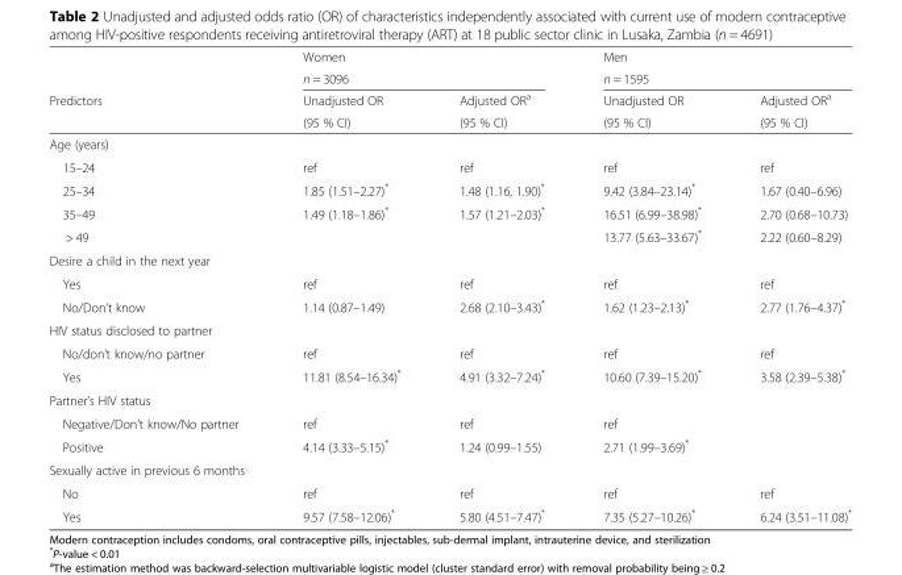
<table><thead><tr><td rowspan="4">Predictors</td><td rowspan="2" colspan="2">Women n = 3096</td><td rowspan="2" colspan="2">Men n = 1595</td></tr><tr></tr><tr><td rowspan="2">Unadjusted OR (95 % CI)</td><td rowspan="2">Adjusted OR<sup>a</sup> (95 % CI)</td><td rowspan="2">Unadjusted OR (95 % CI)</td><td rowspan="2">Adjusted OR<sup>a</sup> (95 % CI)</td></tr><tr></tr></thead><tbody><tr><td colspan="5">Age (years)</td></tr><tr><td>15–24</td><td>ref</td><td>ref</td><td>ref</td><td>ref</td></tr><tr><td>25–34</td><td>1.85 (1.51–2.27)*</td><td>1.48 (1.16, 1.90)*</td><td>9.42 (3.84–23.14)*</td><td>1.67 (0.40–6.96)</td></tr><tr><td>35–49</td><td>1.49 (1.18–1.86)*</td><td>1.57 (1.21–2.03)*</td><td>16.51 (6.99–38.98)*</td><td>2.70 (0.68–10.73)</td></tr><tr><td>&gt; 49</td><td></td><td></td><td>13.77 (5.63–33.67)*</td><td>2.22 (0.60–8.29)</td></tr><tr><td colspan="5">Desire a child in the next year</td></tr><tr><td>Yes</td><td>ref</td><td>ref</td><td>ref</td><td>ref</td></tr><tr><td>No/Don’t know</td><td>1.14 (0.87–1.49)</td><td>2.68 (2.10–3.43)*</td><td>1.62 (1.23–2.13)*</td><td>2.77 (1.76–4.37)*</td></tr><tr><td colspan="5">HIV status disclosed to partner</td></tr><tr><td>No/don’t know/no partner</td><td>ref</td><td>ref</td><td>ref</td><td>ref</td></tr><tr><td>Yes</td><td>11.81 (8.54–16.34)*</td><td>4.91 (3.32–7.24)*</td><td>10.60 (7.39–15.20)*</td><td>3.58 (2.39–5.38)*</td></tr><tr><td colspan="5">Partner’s HIV status</td></tr><tr><td>Negative/Don’t know/No partner</td><td>ref</td><td>ref</td><td>ref</td><td></td></tr><tr><td>Positive</td><td>4.14 (3.33–5.15)*</td><td>1.24 (0.99–1.55)</td><td>2.71 (1.99–3.69)*</td><td></td></tr><tr><td colspan="5">Sexually active in previous 6 months</td></tr><tr><td>No</td><td>ref</td><td>ref</td><td>ref</td><td>ref</td></tr><tr><td>Yes</td><td>9.57 (7.58–12.06)*</td><td>5.80 (4.51–7.47)*</td><td>7.35 (5.27–10.26)*</td><td>6.24 (3.51–11.08)*</td></tr></tbody></table>